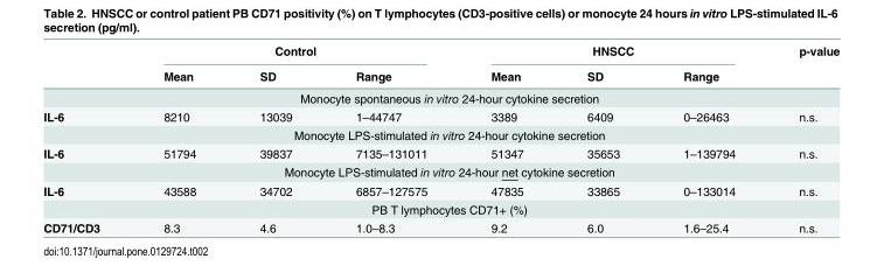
<table><thead><tr><td rowspan="2"></td><td colspan="3">Control</td><td colspan="3">HNSCC</td><td rowspan="2">p-value</td></tr><tr><td>Mean</td><td>SD</td><td>Range</td><td>Mean</td><td>SD</td><td>Range</td></tr></thead><tbody><tr><td></td><td colspan="6">Monocyte spontaneous in vitro 24-hour cytokine secretion</td><td></td></tr><tr><td rowspan="2">IL-6</td><td>8210</td><td>13039</td><td>1–44747</td><td>3389</td><td>6409</td><td>0–26463</td><td>n.s.</td></tr><tr><td colspan="6">Monocyte LPS-stimulated in vitro 24-hour cytokine secretion</td><td></td></tr><tr><td rowspan="2">IL-6</td><td>51794</td><td>39837</td><td>7135–131011</td><td>51347</td><td>35653</td><td>1–139794</td><td>n.s.</td></tr><tr><td colspan="6">Monocyte LPS-stimulated in vitro 24-hour net cytokine secretion</td><td></td></tr><tr><td rowspan="2">IL-6</td><td>43588</td><td>34702</td><td>6857–127575</td><td>47835</td><td>33865</td><td>0–133014</td><td>n.s.</td></tr><tr><td colspan="6">PB T lymphocytes CD71+ (%)</td><td></td></tr><tr><td>CD71/CD3</td><td>8.3</td><td>4.6</td><td>1.0–8.3</td><td>9.2</td><td>6.0</td><td>1.6–25.4</td><td>n.s.</td></tr></tbody></table>